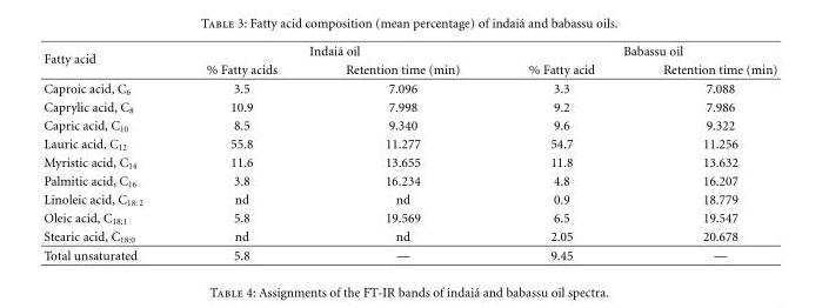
<table><thead><tr><td rowspan="2">Fatty acid</td><td colspan="2">Indai´a oil</td><td colspan="2">Babassu oil</td></tr><tr><td>% Fatty acids</td><td>Retention time (min)</td><td>% Fatty acid</td><td>Retention time (min)</td></tr></thead><tbody><tr><td>Caproic acid, C<sub>6</sub></td><td>3.5</td><td>7.096</td><td>3.3</td><td>7.088</td></tr><tr><td>Caprylic acid, C<sub>8</sub></td><td>10.9</td><td>7.998</td><td>9.2</td><td>7.986</td></tr><tr><td>Capric acid, C<sub>10</sub></td><td>8.5</td><td>9.340</td><td>9.6</td><td>9.322</td></tr><tr><td>Lauric acid, C<sub>12</sub></td><td>55.8</td><td>11.277</td><td>54.7</td><td>11.256</td></tr><tr><td>Myristic acid, C<sub>14</sub></td><td>11.6</td><td>13.655</td><td>11.8</td><td>13.632</td></tr><tr><td>Palmitic acid, C<sub>16</sub></td><td>3.8</td><td>16.234</td><td>4.8</td><td>16.207</td></tr><tr><td>Linoleic acid, C<sub>18:2</sub></td><td>nd</td><td>nd</td><td>0.9</td><td>18.779</td></tr><tr><td>Oleic acid, C<sub>18:1</sub></td><td>5.8</td><td>19.569</td><td>6.5</td><td>19.547</td></tr><tr><td>Stearic acid, C<sub>18:0</sub></td><td>nd</td><td>nd</td><td>2.05</td><td>20.678</td></tr><tr><td>Total unsaturated</td><td>5.8</td><td>—</td><td>9.45</td><td>—</td></tr></tbody></table>